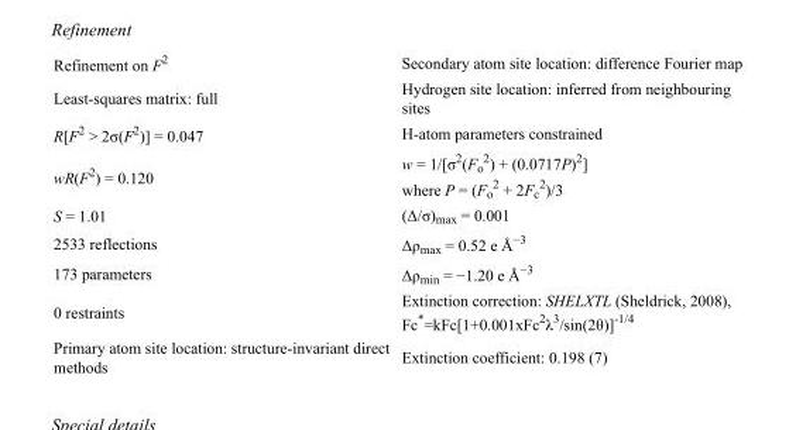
<table><tbody><tr><td>Refinement on F<sup>2</sup></td><td>Secondary atom site location: difference Fourier map</td></tr><tr><td>Least-squares matrix: full</td><td>Hydrogen site location: inferred from neighbouring sites</td></tr><tr><td>R[F<sup>2</sup> &gt; 2σ(F<sup>2</sup>)] = 0.047</td><td>H-atom parameters constrained</td></tr><tr><td>wR(F<sup>2</sup>) = 0.120</td><td>w = 1/[σ<sup>2</sup>(F<sub>o</sub> <sup>2</sup>) + (0.0717P)<sup>2</sup>] where P = (F<sub>o</sub> <sup>2</sup> + 2F<sub>c</sub> <sup>2</sup>)/3</td></tr><tr><td>S = 1.01</td><td>(Δ/σ)<sub>max</sub> = 0.001</td></tr><tr><td>2533 reflections</td><td>Δρ<sub>max</sub> = 0.52 e Å<sup>−3</sup></td></tr><tr><td>173 parameters</td><td>Δρ<sub>min</sub> = −1.20 e Å<sup>−3</sup></td></tr><tr><td>0 restraints</td><td>Extinction correction: SHELXTL (Sheldrick, 2008), Fc*=kFc[1+0.001xFc<sup>2</sup>λ<sup>3</sup>/sin(2θ)]<sup>-1/4</sup></td></tr><tr><td>Primary atom site location: structure-invariant direct methods</td><td>Extinction coefficient: 0.198 (7)</td></tr></tbody></table>